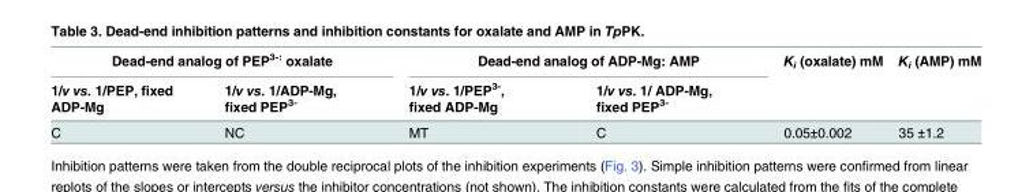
<table><thead><tr><td colspan="2">Dead-end analog of PEP<sup>3-:</sup> oxalate</td><td colspan="2">Dead-end analog of ADP-Mg: AMP</td><td rowspan="2">K<sub>i</sub> (oxalate) mM</td><td rowspan="2">K<sub>i</sub> (AMP) mM</td></tr><tr><td>1/v vs. 1/PEP, fixed ADP-Mg</td><td>1/v vs. 1/ADP-Mg, fixed PEP<sup>3-</sup></td><td>1/v vs. 1/PEP<sup>3-</sup>, fixed ADP-Mg</td><td>1/v vs. 1/ ADP-Mg, fixed PEP<sup>3-</sup></td></tr></thead><tbody><tr><td>C</td><td>NC</td><td>MT</td><td>C</td><td>0.05±0.002</td><td>35 ±1.2</td></tr></tbody></table>